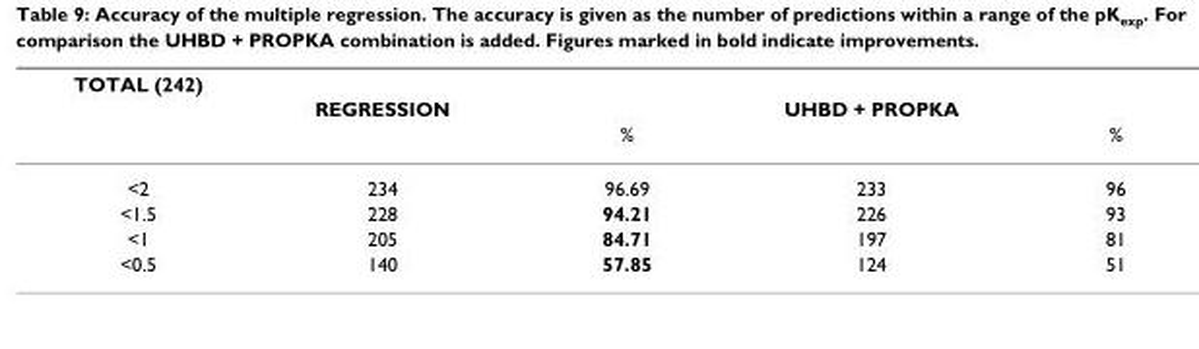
<table><thead><tr><td rowspan="3">TOTAL (242)</td><td rowspan="3">REGRESSION</td><td rowspan="3">%</td><td rowspan="3">UHBD + PROPKA</td><td rowspan="3">%</td></tr><tr></tr><tr></tr></thead><tbody><tr><td>&lt;2</td><td>234</td><td>96.69</td><td>233</td><td>96</td></tr><tr><td>&lt;1.5</td><td>228</td><td>94.21</td><td>226</td><td>93</td></tr><tr><td>&lt;1</td><td>205</td><td>84.71</td><td>197</td><td>81</td></tr><tr><td>&lt;0.5</td><td>140</td><td>57.85</td><td>124</td><td>51</td></tr></tbody></table>